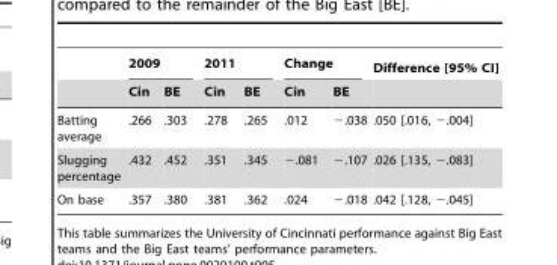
<table><thead><tr><td rowspan="2"></td><td colspan="2">2009</td><td colspan="2">2011</td><td colspan="2">Change</td><td rowspan="2">Difference [95% CI]</td></tr><tr><td>Cin</td><td>BE</td><td>Cin</td><td>BE</td><td>Cin</td><td>BE</td></tr></thead><tbody><tr><td>Batting average</td><td>.266</td><td>.303</td><td>.278</td><td>.265</td><td>.012</td><td>−.038</td><td>.050 [.016, −.004]</td></tr><tr><td>Slugging percentage</td><td>.432</td><td>.452</td><td>.351</td><td>.345</td><td>−.081</td><td>−.107</td><td>.026 [.135, −.083]</td></tr><tr><td>On base</td><td>.357</td><td>.380</td><td>.381</td><td>.362</td><td>.024</td><td>−.018</td><td>.042 [.128, −.045]</td></tr></tbody></table>